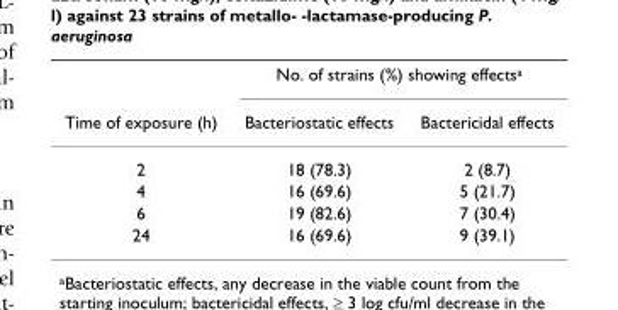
<table><thead><tr><td rowspan="2">Time of exposure (h)</td><td colspan="2">No. of strains (%) showing effects<sup>a</sup></td></tr><tr><td>Bacteriostatic effects</td><td>Bactericidal effects</td></tr></thead><tbody><tr><td>2</td><td>18 (78.3)</td><td>2 (8.7)</td></tr><tr><td>4</td><td>16 (69.6)</td><td>5 (21.7)</td></tr><tr><td>6</td><td>19 (82.6)</td><td>7 (30.4)</td></tr><tr><td>24</td><td>16 (69.6)</td><td>9 (39.1)</td></tr></tbody></table>